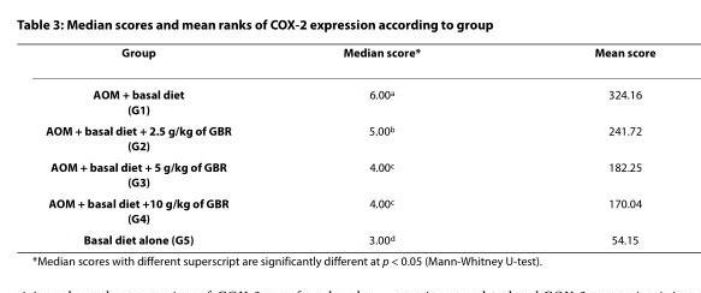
<table><thead><tr><td>Group</td><td>Median score*</td><td>Mean score</td></tr></thead><tbody><tr><td>AOM + basal diet (G1)</td><td>6.00<sup>a</sup></td><td>324.16</td></tr><tr><td>AOM + basal diet + 2.5 g/kg of GBR (G2)</td><td>5.00<sup>b</sup></td><td>241.72</td></tr><tr><td>AOM + basal diet + 5 g/kg of GBR (G3)</td><td>4.00<sup>c</sup></td><td>182.25</td></tr><tr><td>AOM + basal diet +10 g/kg of GBR (G4)</td><td>4.00<sup>c</sup></td><td>170.04</td></tr><tr><td>Basal diet alone (G5)</td><td>3.00<sup>d</sup></td><td>54.15</td></tr></tbody></table>